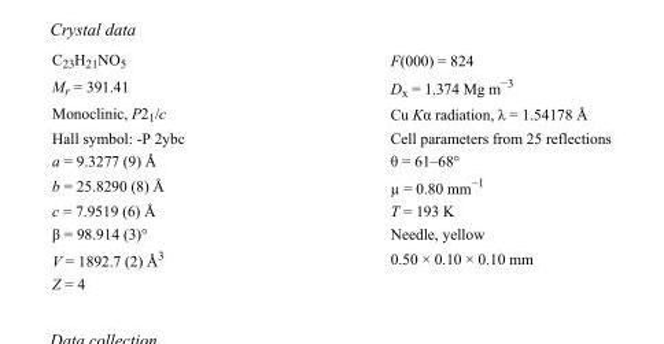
<table><tbody><tr><td>C<sub>23</sub>H<sub>21</sub>NO<sub>5</sub></td><td>F(000) = 824</td></tr><tr><td>M<sub>r</sub> = 391.41</td><td>D<sub>x</sub> = 1.374 Mg m<sup>−3</sup></td></tr><tr><td>Monoclinic, P2<sub>1</sub>/c</td><td>Cu Kα radiation, λ = 1.54178 Å</td></tr><tr><td>Hall symbol: -P 2ybc</td><td>Cell parameters from 25 reflections</td></tr><tr><td>a = 9.3277 (9) Å</td><td>θ = 61–68°</td></tr><tr><td>b = 25.8290 (8) Å</td><td>µ = 0.80 mm<sup>−1</sup></td></tr><tr><td>c = 7.9519 (6) Å</td><td>T = 193 K</td></tr><tr><td>β = 98.914 (3)°</td><td>Needle, yellow</td></tr><tr><td>V = 1892.7 (2) Å<sup>3</sup></td><td>0.50 × 0.10 × 0.10 mm</td></tr><tr><td>Z = 4</td><td></td></tr></tbody></table>